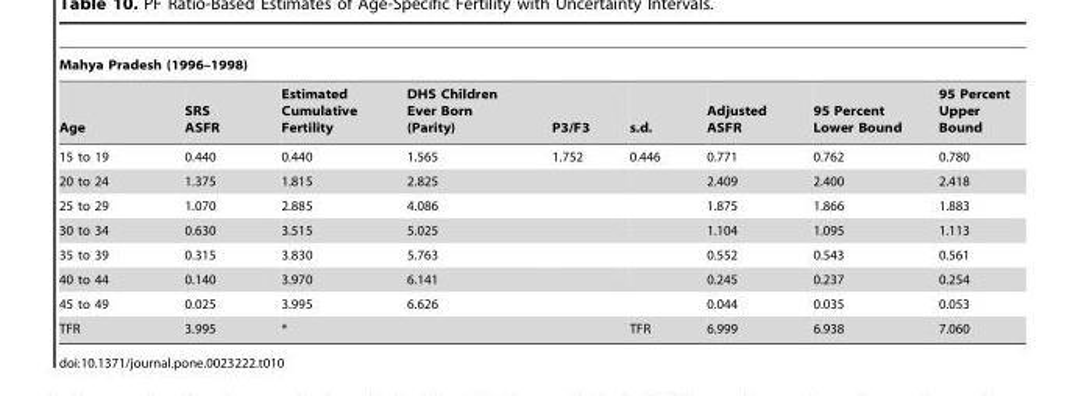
<table><thead><tr><td colspan="9">Mahya Pradesh (1996–1998)</td></tr><tr><td>Age</td><td>SRS ASFR</td><td>Estimated Cumulative Fertility</td><td>DHS Children Ever Born (Parity)</td><td>P3/F3</td><td>s.d.</td><td>Adjusted ASFR</td><td>95 Percent Lower Bound</td><td>95 Percent Upper Bound</td></tr></thead><tbody><tr><td>15 to 19</td><td>0.440</td><td>0.440</td><td>1.565</td><td>1.752</td><td>0.446</td><td>0.771</td><td>0.762</td><td>0.780</td></tr><tr><td>20 to 24</td><td>1.375</td><td>1.815</td><td>2.825</td><td></td><td></td><td>2.409</td><td>2.400</td><td>2.418</td></tr><tr><td>25 to 29</td><td>1.070</td><td>2.885</td><td>4.086</td><td></td><td></td><td>1.875</td><td>1.866</td><td>1.883</td></tr><tr><td>30 to 34</td><td>0.630</td><td>3.515</td><td>5.025</td><td></td><td></td><td>1.104</td><td>1.095</td><td>1.113</td></tr><tr><td>35 to 39</td><td>0.315</td><td>3.830</td><td>5.763</td><td></td><td></td><td>0.552</td><td>0.543</td><td>0.561</td></tr><tr><td>40 to 44</td><td>0.140</td><td>3.970</td><td>6.141</td><td></td><td></td><td>0.245</td><td>0.237</td><td>0.254</td></tr><tr><td>45 to 49</td><td>0.025</td><td>3.995</td><td>6.626</td><td></td><td></td><td>0.044</td><td>0.035</td><td>0.053</td></tr><tr><td>TFR</td><td>3.995</td><td>*</td><td></td><td></td><td>TFR</td><td>6.999</td><td>6.938</td><td>7.060</td></tr></tbody></table>